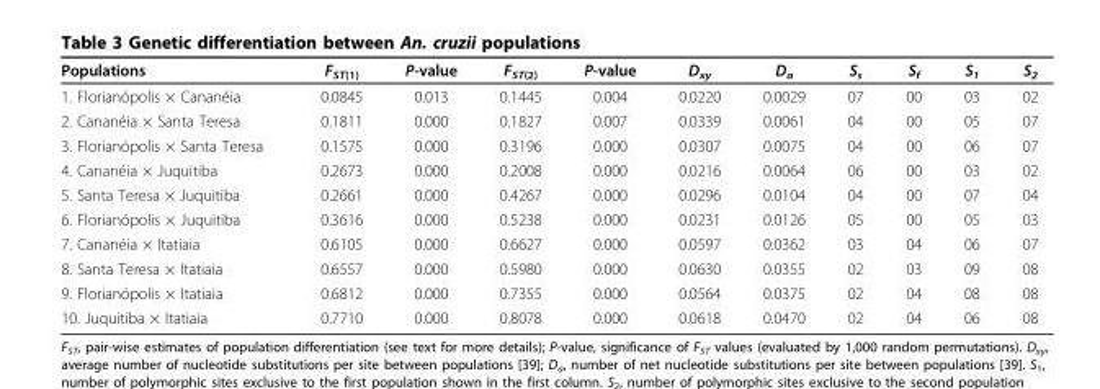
<table><thead><tr><td>Populations</td><td>F<sub>ST(1)</sub></td><td>P-value</td><td>F<sub>ST(2)</sub></td><td>P-value</td><td>D<sub>xy</sub></td><td>D<sub>a</sub></td><td>S<sub>s</sub></td><td>S<sub>f</sub></td><td>S<sub>1</sub></td><td>S<sub>2</sub></td></tr></thead><tbody><tr><td>1. Florianópolis × Cananéia</td><td>0.0845</td><td>0.013</td><td>0.1445</td><td>0.004</td><td>0.0220</td><td>0.0029</td><td>07</td><td>00</td><td>03</td><td>02</td></tr><tr><td>2. Cananéia × Santa Teresa</td><td>0.1811</td><td>0.000</td><td>0.1827</td><td>0.007</td><td>0.0339</td><td>0.0061</td><td>04</td><td>00</td><td>05</td><td>07</td></tr><tr><td>3. Florianópolis × Santa Teresa</td><td>0.1575</td><td>0.000</td><td>0.3196</td><td>0.000</td><td>0.0307</td><td>0.0075</td><td>04</td><td>00</td><td>06</td><td>07</td></tr><tr><td>4. Cananéia × Juquitiba</td><td>0.2673</td><td>0.000</td><td>0.2008</td><td>0.000</td><td>0.0216</td><td>0.0064</td><td>06</td><td>00</td><td>03</td><td>02</td></tr><tr><td>5. Santa Teresa × Juquitiba</td><td>0.2661</td><td>0.000</td><td>0.4267</td><td>0.000</td><td>0.0296</td><td>0.0104</td><td>04</td><td>00</td><td>07</td><td>04</td></tr><tr><td>6. Florianópolis × Juquitiba</td><td>0.3616</td><td>0.000</td><td>0.5238</td><td>0.000</td><td>0.0231</td><td>0.0126</td><td>05</td><td>00</td><td>05</td><td>03</td></tr><tr><td>7. Cananéia × Itatiaia</td><td>0.6105</td><td>0.000</td><td>0.6627</td><td>0.000</td><td>0.0597</td><td>0.0362</td><td>03</td><td>04</td><td>06</td><td>07</td></tr><tr><td>8. Santa Teresa × Itatiaia</td><td>0.6557</td><td>0.000</td><td>0.5980</td><td>0.000</td><td>0.0630</td><td>0.0355</td><td>02</td><td>03</td><td>09</td><td>08</td></tr><tr><td>9. Florianópolis × Itatiaia</td><td>0.6812</td><td>0.000</td><td>0.7355</td><td>0.000</td><td>0.0564</td><td>0.0375</td><td>02</td><td>04</td><td>08</td><td>08</td></tr><tr><td>10. Juquitiba × Itatiaia</td><td>0.7710</td><td>0.000</td><td>0.8078</td><td>0.000</td><td>0.0618</td><td>0.0470</td><td>02</td><td>04</td><td>06</td><td>08</td></tr></tbody></table>